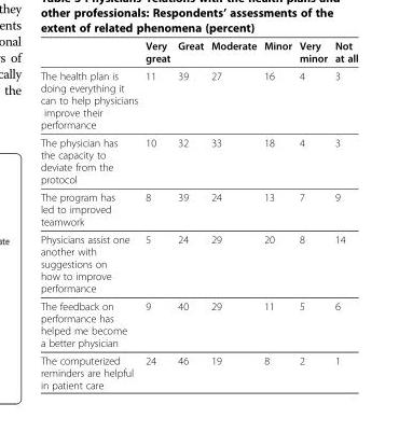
<table><thead><tr><td></td><td>Very great</td><td>Great</td><td>Moderate</td><td>Minor</td><td>Very minor</td><td>Not at all</td></tr></thead><tbody><tr><td>The health plan is doing everything it can to help physicians improve their performance</td><td>11</td><td>39</td><td>27</td><td>16</td><td>4</td><td>3</td></tr><tr><td>The physician has the capacity to deviate from the protocol</td><td>10</td><td>32</td><td>33</td><td>18</td><td>4</td><td>3</td></tr><tr><td>The program has led to improved teamwork</td><td>8</td><td>39</td><td>24</td><td>13</td><td>7</td><td>9</td></tr><tr><td>Physicians assist one another with suggestions on how to improve performance</td><td>5</td><td>24</td><td>29</td><td>20</td><td>8</td><td>14</td></tr><tr><td>The feedback on performance has helped me become a better physician</td><td>9</td><td>40</td><td>29</td><td>11</td><td>5</td><td>6</td></tr><tr><td>The computerized reminders are helpful in patient care</td><td>24</td><td>46</td><td>19</td><td>8</td><td>2</td><td>1</td></tr></tbody></table>